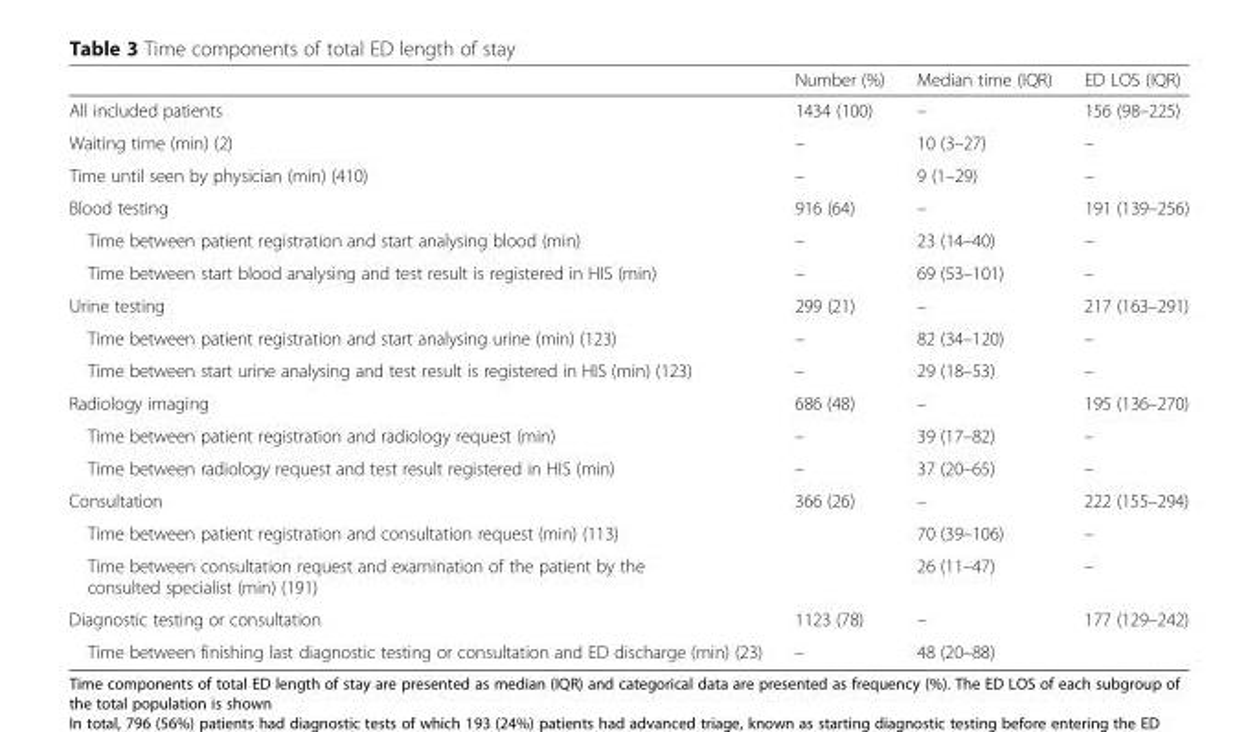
<table><thead><tr><td></td><td>Number (%)</td><td>Median time (IQR)</td><td>ED LOS (IQR)</td></tr></thead><tbody><tr><td>All included patients</td><td>1434 (100)</td><td>–</td><td>156 (98–225)</td></tr><tr><td>Waiting time (min) (2)</td><td>–</td><td>10 (3–27)</td><td>–</td></tr><tr><td>Time until seen by physician (min) (410)</td><td>–</td><td>9 (1–29)</td><td>–</td></tr><tr><td>Blood testing</td><td>916 (64)</td><td>–</td><td>191 (139–256)</td></tr><tr><td>Time between patient registration and start analysing blood (min)</td><td>–</td><td>23 (14–40)</td><td>–</td></tr><tr><td>Time between start blood analysing and test result is registered in HIS (min)</td><td>–</td><td>69 (53–101)</td><td>–</td></tr><tr><td>Urine testing</td><td>299 (21)</td><td>–</td><td>217 (163–291)</td></tr><tr><td>Time between patient registration and start analysing urine (min) (123)</td><td>–</td><td>82 (34–120)</td><td>–</td></tr><tr><td>Time between start urine analysing and test result is registered in HIS (min) (123)</td><td>–</td><td>29 (18–53)</td><td>–</td></tr><tr><td>Radiology imaging</td><td>686 (48)</td><td>–</td><td>195 (136–270)</td></tr><tr><td>Time between patient registration and radiology request (min)</td><td>–</td><td>39 (17–82)</td><td>–</td></tr><tr><td>Time between radiology request and test result registered in HIS (min)</td><td>–</td><td>37 (20–65)</td><td>–</td></tr><tr><td>Consultation</td><td>366 (26)</td><td>–</td><td>222 (155–294)</td></tr><tr><td>Time between patient registration and consultation request (min) (113)</td><td></td><td>70 (39–106)</td><td>–</td></tr><tr><td>Time between consultation request and examination of the patient by the consulted specialist (min) (191)</td><td></td><td>26 (11–47)</td><td>–</td></tr><tr><td>Diagnostic testing or consultation</td><td>1123 (78)</td><td>–</td><td>177 (129–242)</td></tr><tr><td>Time between finishing last diagnostic testing or consultation and ED discharge (min) (23)</td><td>–</td><td>48 (20–88)</td><td></td></tr></tbody></table>